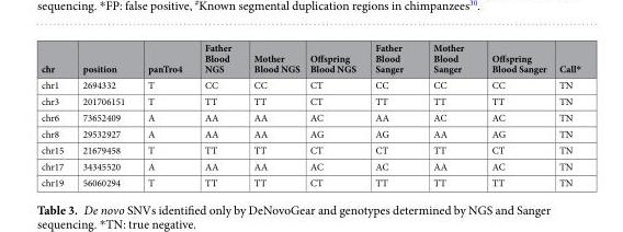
<table><thead><tr><td>chr</td><td>position</td><td>panTro4</td><td>Father Blood NGS</td><td>Mother Blood NGS</td><td>Offspring Blood NGS</td><td>Father Blood Sanger</td><td>Mother Blood Sanger</td><td>Offspring Blood Sanger</td><td>Call*</td></tr></thead><tbody><tr><td>chr1</td><td>2694332</td><td>T</td><td>CC</td><td>CC</td><td>CT</td><td>CC</td><td>CC</td><td>CC</td><td>TN</td></tr><tr><td>chr3</td><td>201706151</td><td>T</td><td>TT</td><td>TT</td><td>CT</td><td>TT</td><td>TT</td><td>TT</td><td>TN</td></tr><tr><td>chr6</td><td>73652409</td><td>A</td><td>AA</td><td>AA</td><td>AC</td><td>AA</td><td>AC</td><td>AC</td><td>TN</td></tr><tr><td>chr8</td><td>29532927</td><td>A</td><td>AA</td><td>AA</td><td>AG</td><td>AG</td><td>AA</td><td>AG</td><td>TN</td></tr><tr><td>chr15</td><td>21679458</td><td>T</td><td>TT</td><td>TT</td><td>CT</td><td>CT</td><td>TT</td><td>CT</td><td>TN</td></tr><tr><td>chr17</td><td>34345520</td><td>A</td><td>AA</td><td>AA</td><td>AC</td><td>AC</td><td>AA</td><td>AC</td><td>TN</td></tr><tr><td>chr19</td><td>56060294</td><td>T</td><td>TT</td><td>TT</td><td>CT</td><td>TT</td><td>TT</td><td>TT</td><td>TN</td></tr></tbody></table>